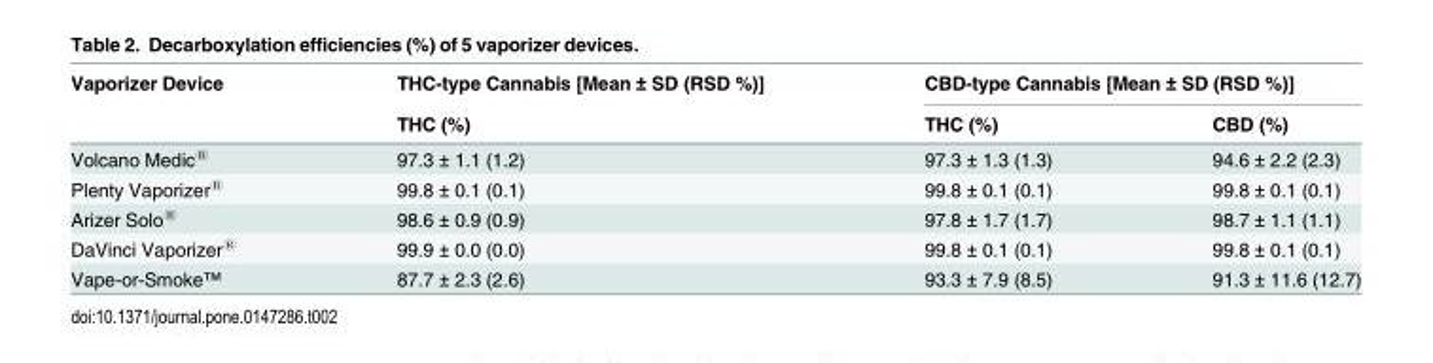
<table><thead><tr><td rowspan="2">Vaporizer Device</td><td rowspan="2">THC-type Cannabis [Mean ± SD (RSD %)] THC (%)</td><td colspan="2">CBD-type Cannabis [Mean ± SD (RSD %)]</td></tr><tr><td>THC (%)</td><td>CBD (%)</td></tr></thead><tbody><tr><td>Volcano Medic<sup>®</sup></td><td>97.3 ± 1.1 (1.2)</td><td>97.3 ± 1.3 (1.3)</td><td>94.6 ± 2.2 (2.3)</td></tr><tr><td>Plenty Vaporizer<sup>®</sup></td><td>99.8 ± 0.1 (0.1)</td><td>99.8 ± 0.1 (0.1)</td><td>99.8 ± 0.1 (0.1)</td></tr><tr><td>Arizer Solo<sup>®</sup></td><td>98.6 ± 0.9 (0.9)</td><td>97.8 ± 1.7 (1.7)</td><td>98.7 ± 1.1 (1.1)</td></tr><tr><td>DaVinci Vaporizer<sup>®</sup></td><td>99.9 ± 0.0 (0.0)</td><td>99.8 ± 0.1 (0.1)</td><td>99.8 ± 0.1 (0.1)</td></tr><tr><td>Vape-or-Smoke<sup>™</sup></td><td>87.7 ± 2.3 (2.6)</td><td>93.3 ± 7.9 (8.5)</td><td>91.3 ± 11.6 (12.7)</td></tr></tbody></table>